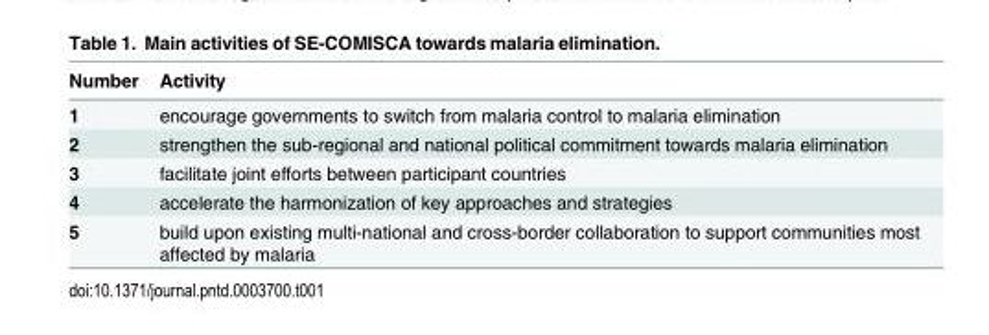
<table><thead><tr><td>Number</td><td>Activity</td></tr></thead><tbody><tr><td>1</td><td>encourage governments to switch from malaria control to malaria elimination</td></tr><tr><td>2</td><td>strengthen the sub-regional and national political commitment towards malaria elimination</td></tr><tr><td>3</td><td>facilitate joint efforts between participant countries</td></tr><tr><td>4</td><td>accelerate the harmonization of key approaches and strategies</td></tr><tr><td>5</td><td>build upon existing multi-national and cross-border collaboration to support communities most affected by malaria</td></tr></tbody></table>